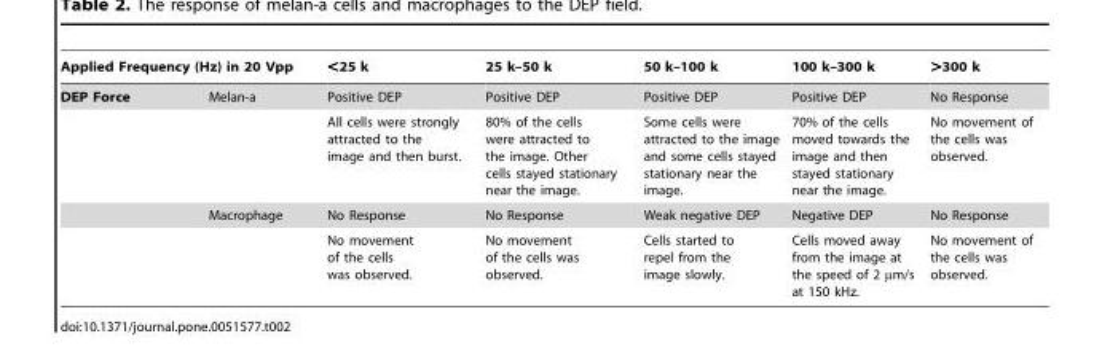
<table><thead><tr><td colspan="2">Applied Frequency (Hz) in 20 Vpp</td><td rowspan="2">&lt;25 k Positive DEP</td><td rowspan="2">25 k–50 k Positive DEP</td><td rowspan="2">50 k–100 k Positive DEP</td><td rowspan="2">100 k–300 k Positive DEP</td><td rowspan="2">&gt;300 k No Response</td></tr><tr><td>DEP Force</td><td>Melan-a</td></tr></thead><tbody><tr><td></td><td></td><td>All cells were strongly attracted to the image and then burst.</td><td>80% of the cells were attracted to the image. Other cells stayed stationary near the image.</td><td>Some cells were attracted to the image and some cells stayed stationary near the image.</td><td>70% of the cells moved towards the image and then stayed stationary near the image.</td><td>No movement of the cells was observed.</td></tr><tr><td></td><td>Macrophage</td><td>No Response</td><td>No Response</td><td>Weak negative DEP</td><td>Negative DEP</td><td>No Response</td></tr><tr><td></td><td></td><td>No movement of the cells was observed.</td><td>No movement of the cells was observed.</td><td>Cells started to repel from the image slowly.</td><td>Cells moved away from the image at the speed of 2 µm/s at 150 kHz.</td><td>No movement of the cells was observed.</td></tr></tbody></table>